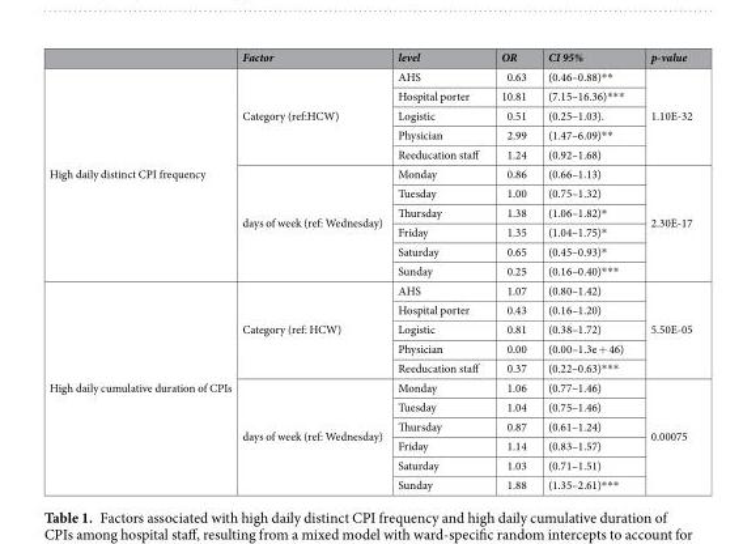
<table><thead><tr><td></td><td>Factor</td><td>level</td><td>OR</td><td>CI 95%</td><td>p-value</td></tr></thead><tbody><tr><td rowspan="11">High daily distinct CPI frequency</td><td rowspan="5">Category (ref:HCW)</td><td>AHS</td><td>0.63</td><td>(0.46–0.88)**</td><td rowspan="5">1.10E-32</td></tr><tr><td>Hospital porter</td><td>10.81</td><td>(7.15–16.36)***</td></tr><tr><td>Logistic</td><td>0.51</td><td>(0.25–1.03).</td></tr><tr><td>Physician</td><td>2.99</td><td>(1.47–6.09)**</td></tr><tr><td>Reeducation staff</td><td>1.24</td><td>(0.92–1.68)</td></tr><tr><td rowspan="6">days of week (ref: Wednesday)</td><td>Monday</td><td>0.86</td><td>(0.66–1.13)</td><td rowspan="6">2.30E-17</td></tr><tr><td>Tuesday</td><td>1.00</td><td>(0.75–1.32)</td></tr><tr><td>Thursday</td><td>1.38</td><td>(1.06–1.82)*</td></tr><tr><td>Friday</td><td>1.35</td><td>(1.04–1.75)*</td></tr><tr><td>Saturday</td><td>0.65</td><td>(0.45–0.93)*</td></tr><tr><td>Sunday</td><td>0.25</td><td>(0.16–0.40)***</td></tr><tr><td rowspan="11">High daily cumulative duration of CPIs</td><td rowspan="5">Category (ref: HCW)</td><td>AHS</td><td>1.07</td><td>(0.80–1.42)</td><td rowspan="5">5.50E-05</td></tr><tr><td>Hospital porter</td><td>0.43</td><td>(0.16–1.20)</td></tr><tr><td>Logistic</td><td>0.81</td><td>(0.38–1.72)</td></tr><tr><td>Physician</td><td>0.00</td><td>(0.00–1.3e + 46)</td></tr><tr><td>Reeducation staff</td><td>0.37</td><td>(0.22–0.63)***</td></tr><tr><td rowspan="6">days of week (ref: Wednesday)</td><td>Monday</td><td>1.06</td><td>(0.77–1.46)</td><td rowspan="6">0.00075</td></tr><tr><td>Tuesday</td><td>1.04</td><td>(0.75–1.46)</td></tr><tr><td>Thursday</td><td>0.87</td><td>(0.61–1.24)</td></tr><tr><td>Friday</td><td>1.14</td><td>(0.83–1.57)</td></tr><tr><td>Saturday</td><td>1.03</td><td>(0.71–1.51)</td></tr><tr><td>Sunday</td><td>1.88</td><td>(1.35–2.61)***</td></tr></tbody></table>